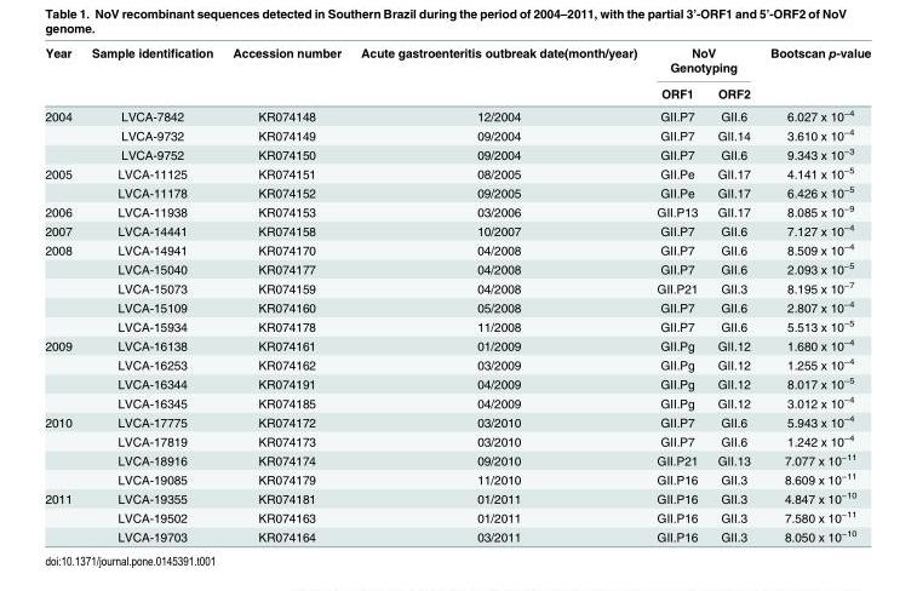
<table><thead><tr><td rowspan="2">Year</td><td rowspan="2">Sample identification</td><td rowspan="2">Accession number</td><td rowspan="2">Acute gastroenteritis outbreak date(month/year)</td><td colspan="2">NoV Genotyping</td><td rowspan="2">Bootscan p-value</td></tr><tr><td>ORF1</td><td>ORF2</td></tr></thead><tbody><tr><td rowspan="3">2004</td><td>LVCA-7842</td><td>KR074148</td><td>12/2004</td><td>GII.P7</td><td>GII.6</td><td>6.027 x 10<sup>−4</sup></td></tr><tr><td>LVCA-9732</td><td>KR074149</td><td>09/2004</td><td>GII.P7</td><td>GII.14</td><td>3.610 x 10<sup>−4</sup></td></tr><tr><td>LVCA-9752</td><td>KR074150</td><td>09/2004</td><td>GII.P7</td><td>GII.6</td><td>9.343 x 10<sup>−3</sup></td></tr><tr><td rowspan="2">2005</td><td>LVCA-11125</td><td>KR074151</td><td>08/2005</td><td>GII.Pe</td><td>GII.17</td><td>4.141 x 10<sup>−5</sup></td></tr><tr><td>LVCA-11178</td><td>KR074152</td><td>09/2005</td><td>GII.Pe</td><td>GII.17</td><td>6.426 x 10<sup>−5</sup></td></tr><tr><td>2006</td><td>LVCA-11938</td><td>KR074153</td><td>03/2006</td><td>GII.P13</td><td>GII.17</td><td>8.085 x 10<sup>−9</sup></td></tr><tr><td>2007</td><td>LVCA-14441</td><td>KR074158</td><td>10/2007</td><td>GII.P7</td><td>GII.6</td><td>7.127 x 10<sup>−4</sup></td></tr><tr><td rowspan="5">2008</td><td>LVCA-14941</td><td>KR074170</td><td>04/2008</td><td>GII.P7</td><td>GII.6</td><td>8.509 x 10<sup>−4</sup></td></tr><tr><td>LVCA-15040</td><td>KR074177</td><td>04/2008</td><td>GII.P7</td><td>GII.6</td><td>2.093 x 10<sup>−5</sup></td></tr><tr><td>LVCA-15073</td><td>KR074159</td><td>04/2008</td><td>GII.P21</td><td>GII.3</td><td>8.195 x 10<sup>−7</sup></td></tr><tr><td>LVCA-15109</td><td>KR074160</td><td>05/2008</td><td>GII.P7</td><td>GII.6</td><td>2.807 x 10<sup>−4</sup></td></tr><tr><td>LVCA-15934</td><td>KR074178</td><td>11/2008</td><td>GII.P7</td><td>GII.6</td><td>5.513 x 10<sup>−5</sup></td></tr><tr><td rowspan="4">2009</td><td>LVCA-16138</td><td>KR074161</td><td>01/2009</td><td>GII.Pg</td><td>GII.12</td><td>1.680 x 10<sup>−4</sup></td></tr><tr><td>LVCA-16253</td><td>KR074162</td><td>03/2009</td><td>GII.Pg</td><td>GII.12</td><td>1.255 x 10<sup>−4</sup></td></tr><tr><td>LVCA-16344</td><td>KR074191</td><td>04/2009</td><td>GII.Pg</td><td>GII.12</td><td>8.017 x 10<sup>−5</sup></td></tr><tr><td>LVCA-16345</td><td>KR074185</td><td>04/2009</td><td>GII.Pg</td><td>GII.12</td><td>3.012 x 10<sup>−4</sup></td></tr><tr><td rowspan="4">2010</td><td>LVCA-17775</td><td>KR074172</td><td>03/2010</td><td>GII.P7</td><td>GII.6</td><td>5.943 x 10<sup>−4</sup></td></tr><tr><td>LVCA-17819</td><td>KR074173</td><td>03/2010</td><td>GII.P7</td><td>GII.6</td><td>1.242 x 10<sup>−4</sup></td></tr><tr><td>LVCA-18916</td><td>KR074174</td><td>09/2010</td><td>GII.P21</td><td>GII.13</td><td>7.077 x 10<sup>−11</sup></td></tr><tr><td>LVCA-19085</td><td>KR074179</td><td>11/2010</td><td>GII.P16</td><td>GII.3</td><td>8.609 x 10<sup>−11</sup></td></tr><tr><td rowspan="3">2011</td><td>LVCA-19355</td><td>KR074181</td><td>01/2011</td><td>GII.P16</td><td>GII.3</td><td>4.847 x 10<sup>−10</sup></td></tr><tr><td>LVCA-19502</td><td>KR074163</td><td>01/2011</td><td>GII.P16</td><td>GII.3</td><td>7.580 x 10<sup>−11</sup></td></tr><tr><td>LVCA-19703</td><td>KR074164</td><td>03/2011</td><td>GII.P16</td><td>GII.3</td><td>8.050 x 10<sup>−10</sup></td></tr></tbody></table>